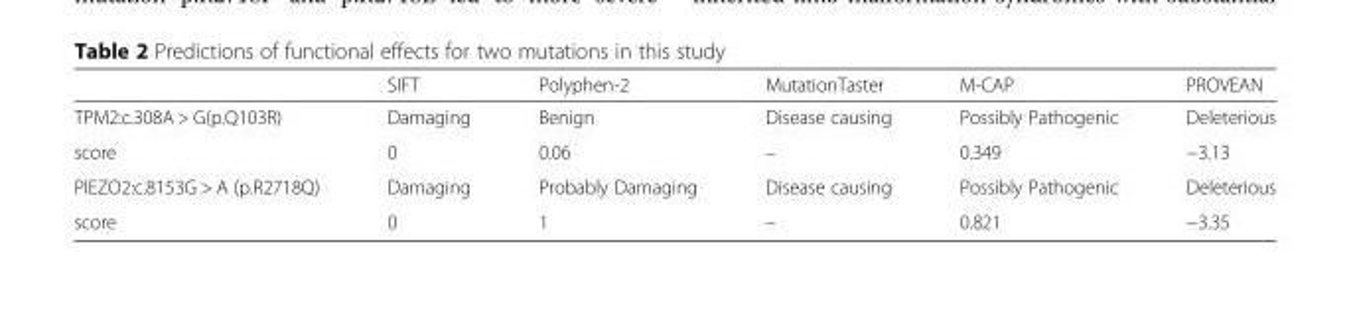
<table><thead><tr><td></td><td>SIFT</td><td>Polyphen-2</td><td>MutationTaster</td><td>M-CAP</td><td>PROVEAN</td></tr></thead><tbody><tr><td>TPM2:c.308A &gt; G(p.Q103R)</td><td>Damaging</td><td>Benign</td><td>Disease causing</td><td>Possibly Pathogenic</td><td>Deleterious</td></tr><tr><td>score</td><td>0</td><td>0.06</td><td>–</td><td>0.349</td><td>−3.13</td></tr><tr><td>PIEZO2:c.8153G &gt; A (p.R2718Q)</td><td>Damaging</td><td>Probably Damaging</td><td>Disease causing</td><td>Possibly Pathogenic</td><td>Deleterious</td></tr><tr><td>score</td><td>0</td><td>1</td><td>–</td><td>0.821</td><td>−3.35</td></tr></tbody></table>